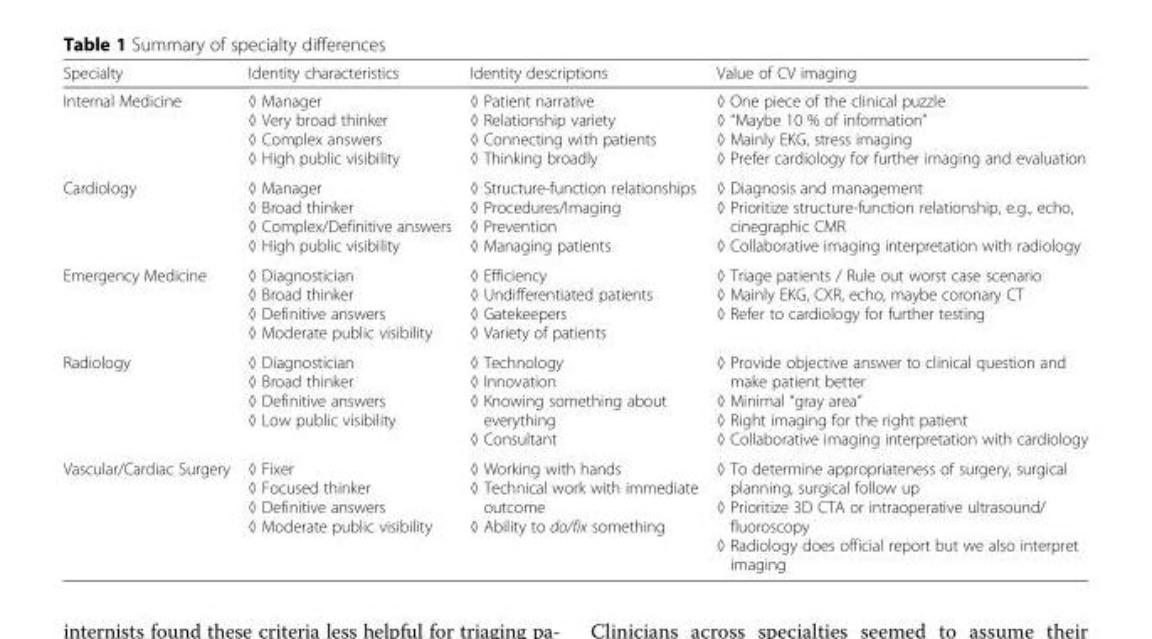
<table><thead><tr><td>Specialty</td><td>Identity characteristics</td><td>Identity descriptions</td><td>Value of CV imaging</td></tr></thead><tbody><tr><td>Internal Medicine</td><td>◊ Manager ◊ Very broad thinker ◊ Complex answers ◊ High public visibility</td><td>◊ Patient narrative ◊ Relationship variety ◊ Connecting with patients ◊ Thinking broadly</td><td>◊ One piece of the clinical puzzle ◊ “Maybe 10 % of information” ◊ Mainly EKG, stress imaging ◊ Prefer cardiology for further imaging and evaluation</td></tr><tr><td>Cardiology</td><td>◊ Manager ◊ Broad thinker ◊ Complex/Definitive answers ◊ High public visibility</td><td>◊ Structure-function relationships ◊ Procedures/Imaging ◊ Prevention ◊ Managing patients</td><td>◊ Diagnosis and management ◊ Prioritize structure-function relationship, e.g., echo, cinegraphic CMR ◊ Collaborative imaging interpretation with radiology</td></tr><tr><td>Emergency Medicine</td><td>◊ Diagnostician ◊ Broad thinker ◊ Definitive answers ◊ Moderate public visibility</td><td>◊ Efficiency ◊ Undifferentiated patients ◊ Gatekeepers ◊ Variety of patients</td><td>◊ Triage patients / Rule out worst case scenario ◊ Mainly EKG, CXR, echo, maybe coronary CT ◊ Refer to cardiology for further testing</td></tr><tr><td>Radiology</td><td>◊ Diagnostician ◊ Broad thinker ◊ Definitive answers ◊ Low public visibility</td><td>◊ Technology ◊ Innovation ◊ Knowing something about everything ◊ Consultant</td><td>◊ Provide objective answer to clinical question and make patient better ◊ Minimal “gray area” ◊ Right imaging for the right patient ◊ Collaborative imaging interpretation with cardiology</td></tr><tr><td>Vascular/Cardiac Surgery</td><td>◊ Fixer ◊ Focused thinker ◊ Definitive answers ◊ Moderate public visibility</td><td>◊ Working with hands ◊ Technical work with immediate outcome ◊ Ability to do/fix something</td><td>◊ To determine appropriateness of surgery, surgical planning, surgical follow up ◊ Prioritize 3D CTA or intraoperative ultrasound/ fluoroscopy ◊ Radiology does official report but we also interpret imaging</td></tr></tbody></table>